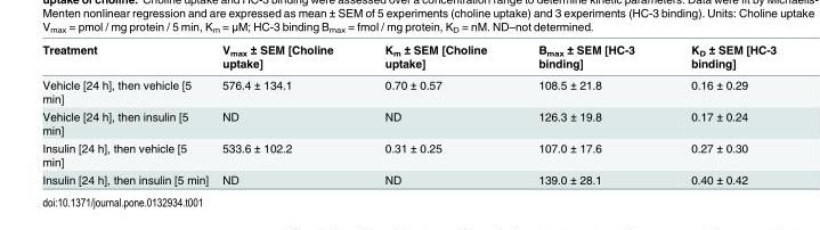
<table><thead><tr><td>Treatment</td><td>V<sub>max</sub> ± SEM [Choline uptake]</td><td>K<sub>m</sub> ± SEM [Choline uptake]</td><td>B<sub>max</sub> ± SEM [HC-3 binding]</td><td>K<sub>D</sub> ± SEM [HC-3 binding]</td></tr></thead><tbody><tr><td>Vehicle [24 h], then vehicle [5 min]</td><td>576.4 ± 134.1</td><td>0.70 ± 0.57</td><td>108.5 ± 21.8</td><td>0.16 ± 0.29</td></tr><tr><td>Vehicle [24 h], then insulin [5 min]</td><td>ND</td><td>ND</td><td>126.3 ± 19.8</td><td>0.17 ± 0.24</td></tr><tr><td>Insulin [24 h], then vehicle [5 min]</td><td>533.6 ± 102.2</td><td>0.31 ± 0.25</td><td>107.0 ± 17.6</td><td>0.27 ± 0.30</td></tr><tr><td>Insulin [24 h], then insulin [5 min]</td><td>ND</td><td>ND</td><td>139.0 ± 28.1</td><td>0.40 ± 0.42</td></tr></tbody></table>